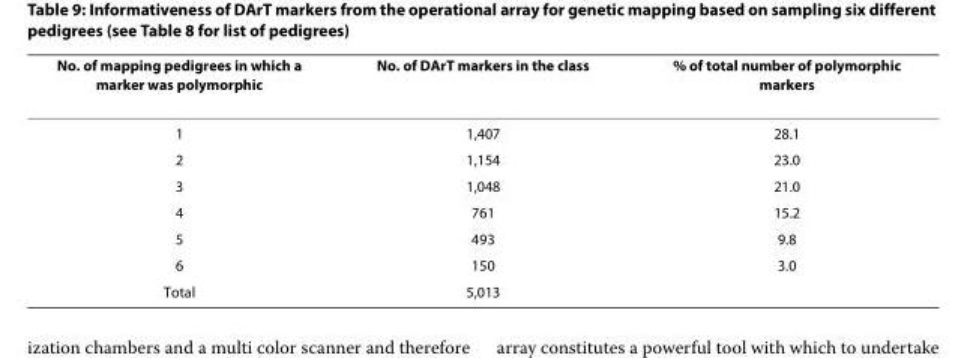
<table><thead><tr><td>No. of mapping pedigrees in which a marker was polymorphic</td><td>No. of DArT markers in the class</td><td>% of total number of polymorphic markers</td></tr></thead><tbody><tr><td>1</td><td>1,407</td><td>28.1</td></tr><tr><td>2</td><td>1,154</td><td>23.0</td></tr><tr><td>3</td><td>1,048</td><td>21.0</td></tr><tr><td>4</td><td>761</td><td>15.2</td></tr><tr><td>5</td><td>493</td><td>9.8</td></tr><tr><td>6</td><td>150</td><td>3.0</td></tr><tr><td>Total</td><td>5,013</td><td></td></tr></tbody></table>